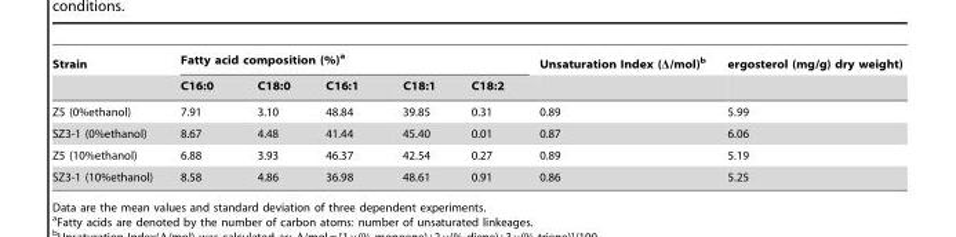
<table><thead><tr><td rowspan="2">Strain</td><td colspan="5">Fatty acid composition (%)<sup>a</sup></td><td rowspan="2">Unsaturation Index (Δ/mol)<sup>b</sup></td><td rowspan="2">ergosterol (mg/g) dry weight)</td></tr><tr><td>C16:0</td><td>C18:0</td><td>C16:1</td><td>C18:1</td><td>C18:2</td></tr></thead><tbody><tr><td>Z5 (0%ethanol)</td><td>7.91</td><td>3.10</td><td>48.84</td><td>39.85</td><td>0.31</td><td>0.89</td><td>5.99</td></tr><tr><td>SZ3-1 (0%ethanol)</td><td>8.67</td><td>4.48</td><td>41.44</td><td>45.40</td><td>0.01</td><td>0.87</td><td>6.06</td></tr><tr><td>Z5 (10%ethanol)</td><td>6.88</td><td>3.93</td><td>46.37</td><td>42.54</td><td>0.27</td><td>0.89</td><td>5.19</td></tr><tr><td>SZ3-1 (10%ethanol)</td><td>8.58</td><td>4.86</td><td>36.98</td><td>48.61</td><td>0.91</td><td>0.86</td><td>5.25</td></tr></tbody></table>